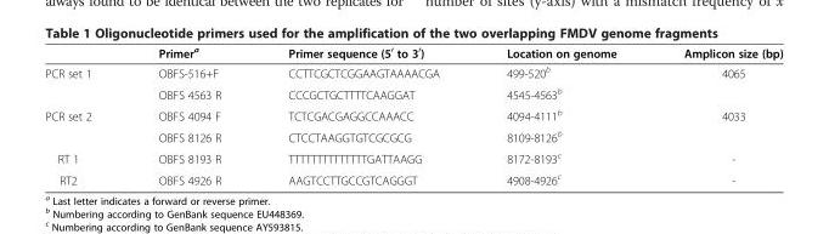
<table><thead><tr><td></td><td>Primer<sup>a</sup></td><td>Primer sequence (5<sup>′</sup> to 3<sup>′</sup>)</td><td>Location on genome</td><td>Amplicon size (bp)</td></tr></thead><tbody><tr><td rowspan="2">PCR set 1</td><td>OBFS-516+F</td><td>CCTTCGCTCGGAAGTAAAACGA</td><td>499-520<sup>b</sup></td><td rowspan="2">4065</td></tr><tr><td>OBFS 4563 R</td><td>CCCGCTGCTTTTCAAGGAT</td><td>4545-4563<sup>b</sup></td></tr><tr><td rowspan="2">PCR set 2</td><td>OBFS 4094 F</td><td>TCTCGACGAGGCCAAACC</td><td>4094-4111<sup>b</sup></td><td rowspan="2">4033</td></tr><tr><td>OBFS 8126 R</td><td>CTCCTAAGGTGTCGCGCG</td><td>8109-8126<sup>b</sup></td></tr><tr><td>RT 1</td><td>OBFS 8193 R</td><td>TTTTTTTTTTTTTTGATTAAGG</td><td>8172-8193<sup>c</sup></td><td>-</td></tr><tr><td>RT2</td><td>OBFS 4926 R</td><td>AAGTCCTTGCCGTCAGGGT</td><td>4908-4926<sup>c</sup></td><td>-</td></tr></tbody></table>